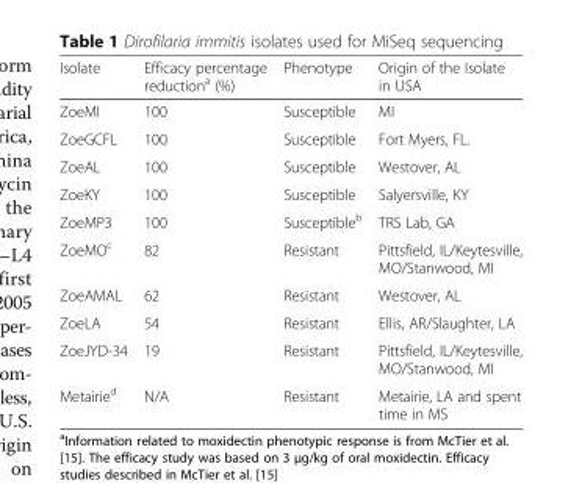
<table><thead><tr><td>Isolate</td><td>Efficacy percentage reduction<sup>a</sup> (%)</td><td>Phenotype</td><td>Origin of the Isolate in USA</td></tr></thead><tbody><tr><td>ZoeMI</td><td>100</td><td>Susceptible</td><td>MI</td></tr><tr><td>ZoeGCFL</td><td>100</td><td>Susceptible</td><td>Fort Myers, FL.</td></tr><tr><td>ZoeAL</td><td>100</td><td>Susceptible</td><td>Westover, AL</td></tr><tr><td>ZoeKY</td><td>100</td><td>Susceptible</td><td>Salyersville, KY</td></tr><tr><td>ZoeMP3</td><td>100</td><td>Susceptible<sup>b</sup></td><td>TRS Lab, GA</td></tr><tr><td>ZoeMO<sup>c</sup></td><td>82</td><td>Resistant</td><td>Pittsfield, IL/Keytesville, MO/Stanwood, MI</td></tr><tr><td>ZoeAMAL</td><td>62</td><td>Resistant</td><td>Westover, AL</td></tr><tr><td>ZoeLA</td><td>54</td><td>Resistant</td><td>Ellis, AR/Slaughter, LA</td></tr><tr><td>ZoeJYD-34</td><td>19</td><td>Resistant</td><td>Pittsfield, IL/Keytesville, MO/Stanwood, MI</td></tr><tr><td>Metairie<sup>d</sup></td><td>N/A</td><td>Resistant</td><td>Metairie, LA and spent time in MS</td></tr></tbody></table>